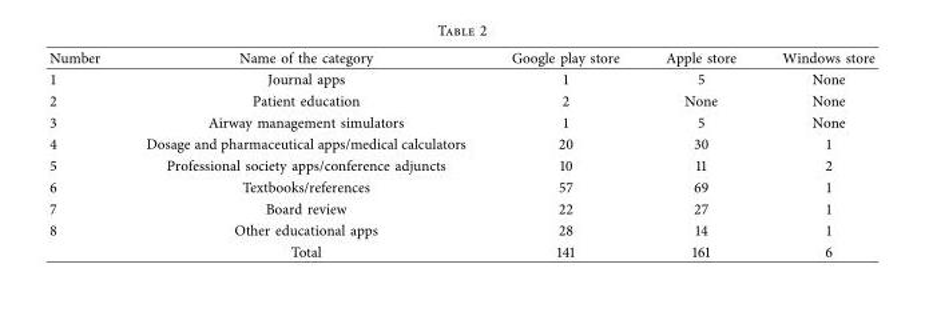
<table><thead><tr><td>Number</td><td>Name of the category</td><td>Google play store</td><td>Apple store</td><td>Windows store</td></tr></thead><tbody><tr><td>1</td><td>Journal apps</td><td>1</td><td>5</td><td>None</td></tr><tr><td>2</td><td>Patient education</td><td>2</td><td>None</td><td>None</td></tr><tr><td>3</td><td>Airway management simulators</td><td>1</td><td>5</td><td>None</td></tr><tr><td>4</td><td>Dosage and pharmaceutical apps/medical calculators</td><td>20</td><td>30</td><td>1</td></tr><tr><td>5</td><td>Professional society apps/conference adjuncts</td><td>10</td><td>11</td><td>2</td></tr><tr><td>6</td><td>Textbooks/references</td><td>57</td><td>69</td><td>1</td></tr><tr><td>7</td><td>Board review</td><td>22</td><td>27</td><td>1</td></tr><tr><td rowspan="2">8</td><td>Other educational apps</td><td>28</td><td>14</td><td>1</td></tr><tr><td>Total</td><td>141</td><td>161</td><td>6</td></tr></tbody></table>